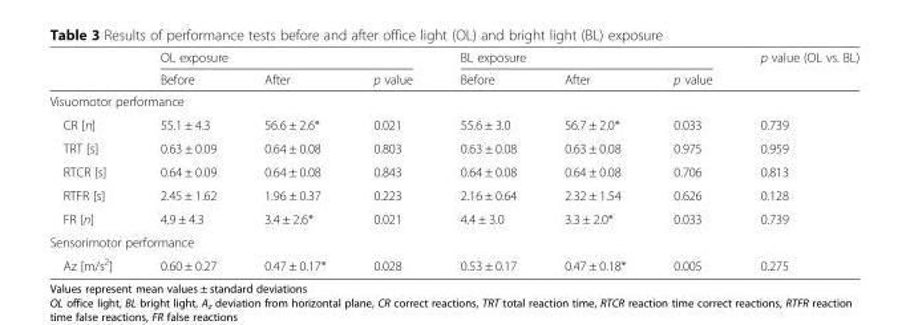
<table><thead><tr><td rowspan="2"></td><td colspan="3">OL exposure</td><td colspan="3">BL exposure</td><td rowspan="2">p value (OL vs. BL)</td></tr><tr><td>Before</td><td>After</td><td>p value</td><td>Before</td><td>After</td><td>p value</td></tr></thead><tbody><tr><td colspan="8">Visuomotor performance</td></tr><tr><td>CR [n]</td><td>55.1 ± 4.3</td><td>56.6 ± 2.6*</td><td>0.021</td><td>55.6 ± 3.0</td><td>56.7 ± 2.0*</td><td>0.033</td><td>0.739</td></tr><tr><td>TRT [s]</td><td>0.63 ± 0.09</td><td>0.64 ± 0.08</td><td>0.803</td><td>0.63 ± 0.08</td><td>0.63 ± 0.08</td><td>0.975</td><td>0.959</td></tr><tr><td>RTCR [s]</td><td>0.64 ± 0.09</td><td>0.64 ± 0.08</td><td>0.843</td><td>0.64 ± 0.08</td><td>0.64 ± 0.08</td><td>0.706</td><td>0.813</td></tr><tr><td>RTFR [s]</td><td>2.45 ± 1.62</td><td>1.96 ± 0.37</td><td>0.223</td><td>2.16 ± 0.64</td><td>2.32 ± 1.54</td><td>0.626</td><td>0.128</td></tr><tr><td>FR [n]</td><td>4.9 ± 4.3</td><td>3.4 ± 2.6*</td><td>0.021</td><td>4.4 ± 3.0</td><td>3.3 ± 2.0*</td><td>0.033</td><td>0.739</td></tr><tr><td colspan="8">Sensorimotor performance</td></tr><tr><td>Az [m/s<sup>2</sup>]</td><td>0.60 ± 0.27</td><td>0.47 ± 0.17*</td><td>0.028</td><td>0.53 ± 0.17</td><td>0.47 ± 0.18*</td><td>0.005</td><td>0.275</td></tr></tbody></table>